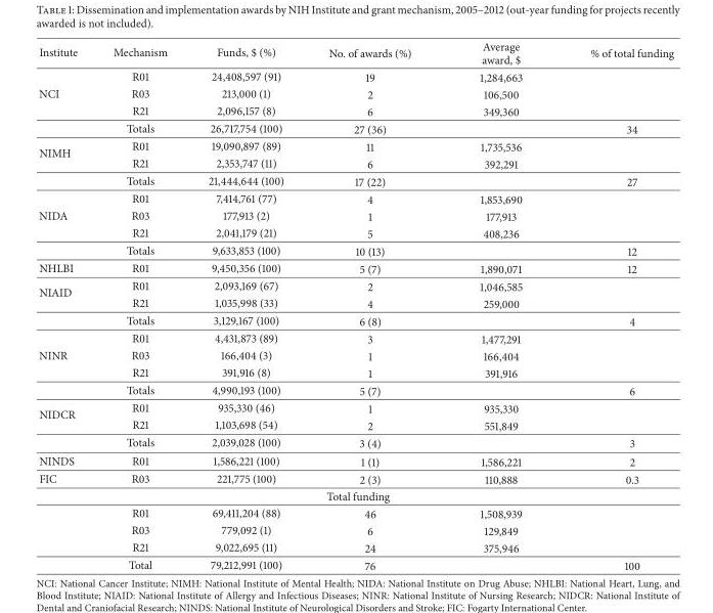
<table><thead><tr><td>Institute</td><td>Mechanism</td><td>Funds, $ (%)</td><td>No. of awards (%)</td><td>Average award, $</td><td>% of total funding</td></tr></thead><tbody><tr><td></td><td>R01</td><td>24,408,597 (91)</td><td>19</td><td>1,284,663</td><td></td></tr><tr><td rowspan="3">NCI</td><td>R03</td><td>213,000 (1)</td><td>2</td><td>106,500</td><td></td></tr><tr><td>R21</td><td>2,096,157 (8)</td><td>6</td><td>349,360</td><td></td></tr><tr><td>Totals</td><td>26,717,754 (100)</td><td>27 (36)</td><td></td><td>34</td></tr><tr><td rowspan="4">NIMH</td><td>R01</td><td>19,090,897 (89)</td><td>11</td><td>1,735,536</td><td></td></tr><tr><td>R21</td><td>2,353,747 (11)</td><td>6</td><td>392,291</td><td></td></tr><tr><td>Totals</td><td>21,444,644 (100)</td><td>17 (22)</td><td></td><td>27</td></tr><tr><td>R01</td><td>7,414,761 (77)</td><td>4</td><td>1,853,690</td><td></td></tr><tr><td rowspan="3">NIDA</td><td>R03</td><td>177,913 (2)</td><td>1</td><td>177,913</td><td></td></tr><tr><td>R21</td><td>2,041,179 (21)</td><td>5</td><td>408,236</td><td></td></tr><tr><td>Totals</td><td>9,633,853 (100)</td><td>10 (13)</td><td></td><td>12</td></tr><tr><td>NHLBI</td><td>R01</td><td>9,450,356 (100)</td><td>5 (7)</td><td>1,890,071</td><td>12</td></tr><tr><td rowspan="4">NIAID</td><td>R01</td><td>2,093,169 (67)</td><td>2</td><td>1,046,585</td><td></td></tr><tr><td>R21</td><td>1,035,998 (33)</td><td>4</td><td>259,000</td><td></td></tr><tr><td>Totals</td><td>3,129,167 (100)</td><td>6 (8)</td><td></td><td>4</td></tr><tr><td>R01</td><td>4,431,873 (89)</td><td>3</td><td>1,477,291</td><td></td></tr><tr><td rowspan="3">NINR</td><td>R03</td><td>166,404 (3)</td><td>1</td><td>166,404</td><td></td></tr><tr><td>R21</td><td>391,916 (8)</td><td>1</td><td>391,916</td><td></td></tr><tr><td>Totals</td><td>4,990,193 (100)</td><td>5 (7)</td><td></td><td>6</td></tr><tr><td rowspan="3">NIDCR</td><td>R01</td><td>935,330 (46)</td><td>1</td><td>935,330</td><td></td></tr><tr><td>R21</td><td>1,103,698 (54)</td><td>2</td><td>551,849</td><td></td></tr><tr><td>Totals</td><td>2,039,028 (100)</td><td>3 (4)</td><td></td><td>3</td></tr><tr><td>NINDS</td><td>R01</td><td>1,586,221 (100)</td><td>1 (1)</td><td>1,586,221</td><td>2</td></tr><tr><td>FIC</td><td>R03</td><td>221,775 (100)</td><td>2 (3)</td><td>110,888</td><td>0.3</td></tr><tr><td colspan="6">Total funding</td></tr><tr><td></td><td>R01</td><td>69,411,204 (88)</td><td>46</td><td>1,508,939</td><td></td></tr><tr><td></td><td>R03</td><td>779,092 (1)</td><td>6</td><td>129,849</td><td></td></tr><tr><td></td><td>R21</td><td>9,022,695 (11)</td><td>24</td><td>375,946</td><td></td></tr><tr><td></td><td>Total</td><td>79,212,991 (100)</td><td>76</td><td></td><td>100</td></tr></tbody></table>